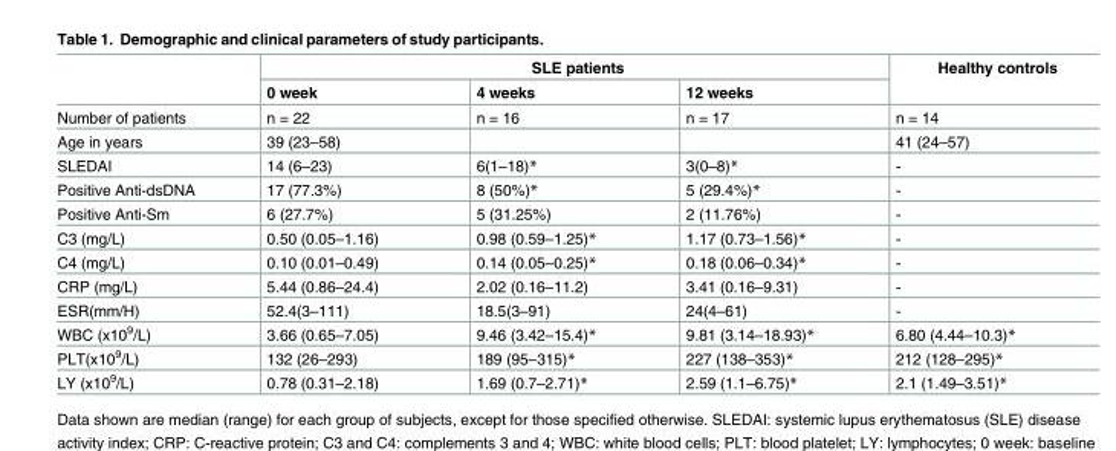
<table><thead><tr><td rowspan="2"></td><td colspan="3">SLE patients</td><td rowspan="2">Healthy controls</td></tr><tr><td>0 week</td><td>4 weeks</td><td>12 weeks</td></tr></thead><tbody><tr><td>Number of patients</td><td>n = 22</td><td>n = 16</td><td>n = 17</td><td>n = 14</td></tr><tr><td>Age in years</td><td>39 (23–58)</td><td></td><td></td><td>41 (24–57)</td></tr><tr><td>SLEDAI</td><td>14 (6–23)</td><td>6(1–18)*</td><td>3(0–8)*</td><td>-</td></tr><tr><td>Positive Anti-dsDNA</td><td>17 (77.3%)</td><td>8 (50%)*</td><td>5 (29.4%)*</td><td>-</td></tr><tr><td>Positive Anti-Sm</td><td>6 (27.7%)</td><td>5 (31.25%)</td><td>2 (11.76%)</td><td>-</td></tr><tr><td>C3 (mg/L)</td><td>0.50 (0.05–1.16)</td><td>0.98 (0.59–1.25)*</td><td>1.17 (0.73–1.56)*</td><td>-</td></tr><tr><td>C4 (mg/L)</td><td>0.10 (0.01–0.49)</td><td>0.14 (0.05–0.25)*</td><td>0.18 (0.06–0.34)*</td><td>-</td></tr><tr><td>CRP (mg/L)</td><td>5.44 (0.86–24.4)</td><td>2.02 (0.16–11.2)</td><td>3.41 (0.16–9.31)</td><td>-</td></tr><tr><td>ESR(mm/H)</td><td>52.4(3–111)</td><td>18.5(3–91)</td><td>24(4–61)</td><td>-</td></tr><tr><td>WBC (x10<sup>9</sup>/L)</td><td>3.66 (0.65–7.05)</td><td>9.46 (3.42–15.4)*</td><td>9.81 (3.14–18.93)*</td><td>6.80 (4.44–10.3)*</td></tr><tr><td>PLT(x10<sup>9</sup>/L)</td><td>132 (26–293)</td><td>189 (95–315)*</td><td>227 (138–353)*</td><td>212 (128–295)*</td></tr><tr><td>LY (x10<sup>9</sup>/L)</td><td>0.78 (0.31–2.18)</td><td>1.69 (0.7–2.71)*</td><td>2.59 (1.1–6.75)*</td><td>2.1 (1.49–3.51)*</td></tr></tbody></table>